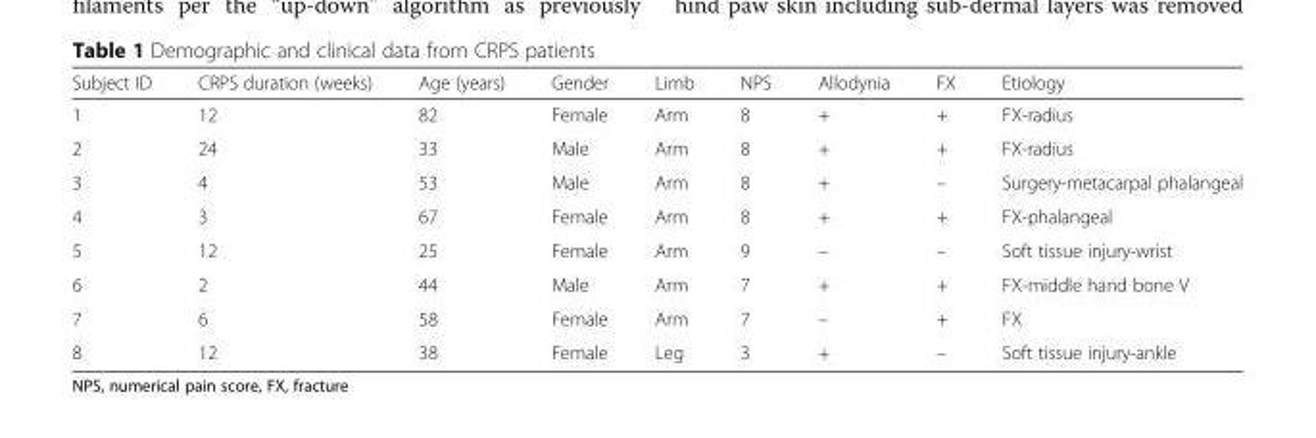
<table><thead><tr><td>Subject ID</td><td>CRPS duration (weeks)</td><td>Age (years)</td><td>Gender</td><td>Limb</td><td>NPS</td><td>Allodynia</td><td>FX</td><td>Etiology</td></tr></thead><tbody><tr><td>1</td><td>12</td><td>82</td><td>Female</td><td>Arm</td><td>8</td><td>+</td><td>+</td><td>FX-radius</td></tr><tr><td>2</td><td>24</td><td>33</td><td>Male</td><td>Arm</td><td>8</td><td>+</td><td>+</td><td>FX-radius</td></tr><tr><td>3</td><td>4</td><td>53</td><td>Male</td><td>Arm</td><td>8</td><td>+</td><td>–</td><td>Surgery-metacarpal phalangeal</td></tr><tr><td>4</td><td>3</td><td>67</td><td>Female</td><td>Arm</td><td>8</td><td>+</td><td>+</td><td>FX-phalangeal</td></tr><tr><td>5</td><td>12</td><td>25</td><td>Female</td><td>Arm</td><td>9</td><td>–</td><td>–</td><td>Soft tissue injury-wrist</td></tr><tr><td>6</td><td>2</td><td>44</td><td>Male</td><td>Arm</td><td>7</td><td>+</td><td>+</td><td>FX-middle hand bone V</td></tr><tr><td>7</td><td>6</td><td>58</td><td>Female</td><td>Arm</td><td>7</td><td>–</td><td>+</td><td>FX</td></tr><tr><td>8</td><td>12</td><td>38</td><td>Female</td><td>Leg</td><td>3</td><td>+</td><td>–</td><td>Soft tissue injury-ankle</td></tr></tbody></table>